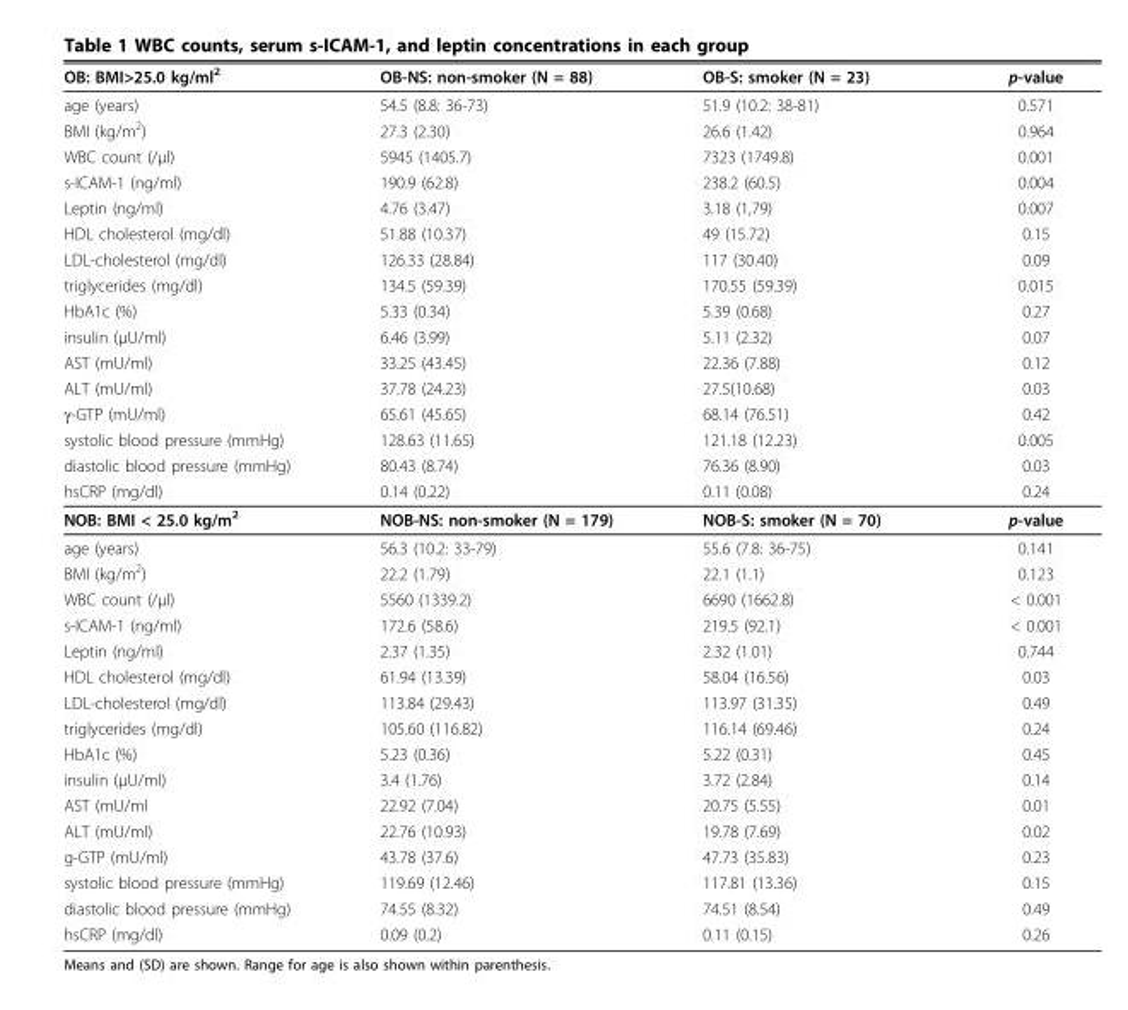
<table><tbody><tr><td>OB: BMI&gt;25.0 kg/ml<sup>2</sup></td><td>OB-NS: non-smoker (N = 88)</td><td>OB-S: smoker (N = 23)</td><td>p-value</td></tr><tr><td>age (years)</td><td>54.5 (8.8: 36-73)</td><td>51.9 (10.2: 38-81)</td><td>0.571</td></tr><tr><td>BMI (kg/m<sup>2</sup>)</td><td>27.3 (2.30)</td><td>26.6 (1.42)</td><td>0.964</td></tr><tr><td>WBC count (/μl)</td><td>5945 (1405.7)</td><td>7323 (1749.8)</td><td>0.001</td></tr><tr><td>s-ICAM-1 (ng/ml)</td><td>190.9 (62.8)</td><td>238.2 (60.5)</td><td>0.004</td></tr><tr><td>Leptin (ng/ml)</td><td>4.76 (3.47)</td><td>3.18 (1,79)</td><td>0.007</td></tr><tr><td>HDL cholesterol (mg/dl)</td><td>51.88 (10.37)</td><td>49 (15.72)</td><td>0.15</td></tr><tr><td>LDL-cholesterol (mg/dl)</td><td>126.33 (28.84)</td><td>117 (30.40)</td><td>0.09</td></tr><tr><td>triglycerides (mg/dl)</td><td>134.5 (59.39)</td><td>170.55 (59.39)</td><td>0.015</td></tr><tr><td>HbA1c (%)</td><td>5.33 (0.34)</td><td>5.39 (0.68)</td><td>0.27</td></tr><tr><td>insulin (μU/ml)</td><td>6.46 (3.99)</td><td>5.11 (2.32)</td><td>0.07</td></tr><tr><td>AST (mU/ml)</td><td>33.25 (43.45)</td><td>22.36 (7.88)</td><td>0.12</td></tr><tr><td>ALT (mU/ml)</td><td>37.78 (24.23)</td><td>27.5(10.68)</td><td>0.03</td></tr><tr><td>γ-GTP (mU/ml)</td><td>65.61 (45.65)</td><td>68.14 (76.51)</td><td>0.42</td></tr><tr><td>systolic blood pressure (mmHg)</td><td>128.63 (11.65)</td><td>121.18 (12.23)</td><td>0.005</td></tr><tr><td>diastolic blood pressure (mmHg)</td><td>80.43 (8.74)</td><td>76.36 (8.90)</td><td>0.03</td></tr><tr><td>hsCRP (mg/dl)</td><td>0.14 (0.22)</td><td>0.11 (0.08)</td><td>0.24</td></tr><tr><td>NOB: BMI &lt; 25.0 kg/m<sup>2</sup></td><td>NOB-NS: non-smoker (N = 179)</td><td>NOB-S: smoker (N = 70)</td><td>p-value</td></tr><tr><td>age (years)</td><td>56.3 (10.2: 33-79)</td><td>55.6 (7.8: 36-75)</td><td>0.141</td></tr><tr><td>BMI (kg/m<sup>2</sup>)</td><td>22.2 (1.79)</td><td>22.1 (1.1)</td><td>0.123</td></tr><tr><td>WBC count (/μl)</td><td>5560 (1339.2)</td><td>6690 (1662.8)</td><td>&lt; 0.001</td></tr><tr><td>s-ICAM-1 (ng/ml)</td><td>172.6 (58.6)</td><td>219.5 (92.1)</td><td>&lt; 0.001</td></tr><tr><td>Leptin (ng/ml)</td><td>2.37 (1.35)</td><td>2.32 (1.01)</td><td>0.744</td></tr><tr><td>HDL cholesterol (mg/dl)</td><td>61.94 (13.39)</td><td>58.04 (16.56)</td><td>0.03</td></tr><tr><td>LDL-cholesterol (mg/dl)</td><td>113.84 (29.43)</td><td>113.97 (31.35)</td><td>0.49</td></tr><tr><td>triglycerides (mg/dl)</td><td>105.60 (116.82)</td><td>116.14 (69.46)</td><td>0.24</td></tr><tr><td>HbA1c (%)</td><td>5.23 (0.36)</td><td>5.22 (0.31)</td><td>0.45</td></tr><tr><td>insulin (μU/ml)</td><td>3.4 (1.76)</td><td>3.72 (2.84)</td><td>0.14</td></tr><tr><td>AST (mU/ml</td><td>22.92 (7.04)</td><td>20.75 (5.55)</td><td>0.01</td></tr><tr><td>ALT (mU/ml)</td><td>22.76 (10.93)</td><td>19.78 (7.69)</td><td>0.02</td></tr><tr><td>g-GTP (mU/ml)</td><td>43.78 (37.6)</td><td>47.73 (35.83)</td><td>0.23</td></tr><tr><td>systolic blood pressure (mmHg)</td><td>119.69 (12.46)</td><td>117.81 (13.36)</td><td>0.15</td></tr><tr><td>diastolic blood pressure (mmHg)</td><td>74.55 (8.32)</td><td>74.51 (8.54)</td><td>0.49</td></tr><tr><td>hsCRP (mg/dl)</td><td>0.09 (0.2)</td><td>0.11 (0.15)</td><td>0.26</td></tr></tbody></table>